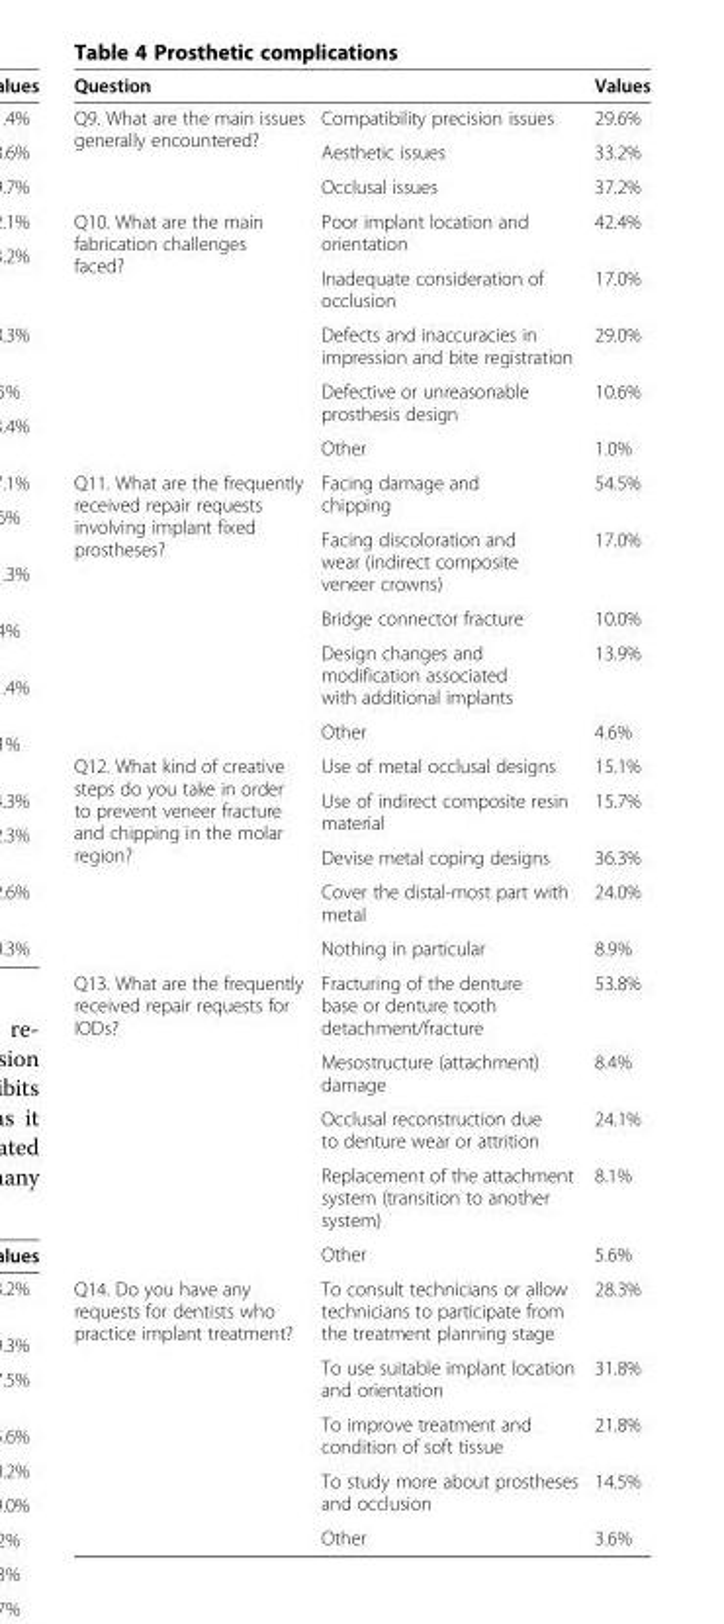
<table><thead><tr><td>Question</td><td></td><td>Values</td></tr></thead><tbody><tr><td rowspan="3">Q9. What are the main issues generally encountered?</td><td>Compatibility precision issues</td><td>29.6%</td></tr><tr><td>Aesthetic issues</td><td>33.2%</td></tr><tr><td>Occlusal issues</td><td>37.2%</td></tr><tr><td rowspan="5">Q10. What are the main fabrication challenges faced?</td><td>Poor implant location and orientation</td><td>42.4%</td></tr><tr><td>Inadequate consideration of occlusion</td><td>17.0%</td></tr><tr><td>Defects and inaccuracies in impression and bite registration</td><td>29.0%</td></tr><tr><td>Defective or unreasonable prosthesis design</td><td>10.6%</td></tr><tr><td>Other</td><td>1.0%</td></tr><tr><td rowspan="5">Q11. What are the frequently received repair requests involving implant fixed prostheses?</td><td>Facing damage and chipping</td><td>54.5%</td></tr><tr><td>Facing discoloration and wear (indirect composite veneer crowns)</td><td>17.0%</td></tr><tr><td>Bridge connector fracture</td><td>10.0%</td></tr><tr><td>Design changes and modification associated with additional implants</td><td>13.9%</td></tr><tr><td>Other</td><td>4.6%</td></tr><tr><td rowspan="5">Q12. What kind of creative steps do you take in order to prevent veneer fracture and chipping in the molar region?</td><td>Use of metal occlusal designs</td><td>15.1%</td></tr><tr><td>Use of indirect composite resin material</td><td>15.7%</td></tr><tr><td>Devise metal coping designs</td><td>36.3%</td></tr><tr><td>Cover the distal-most part with metal</td><td>24.0%</td></tr><tr><td>Nothing in particular</td><td>8.9%</td></tr><tr><td rowspan="5">Q13. What are the frequently received repair requests for IODs?</td><td>Fracturing of the denture base or denture tooth detachment/fracture</td><td>53.8%</td></tr><tr><td>Mesostructure (attachment) damage</td><td>8.4%</td></tr><tr><td>Occlusal reconstruction due to denture wear or attrition</td><td>24.1%</td></tr><tr><td>Replacement of the attachment system (transition to another system)</td><td>8.1%</td></tr><tr><td>Other</td><td>5.6%</td></tr><tr><td rowspan="5">Q14. Do you have any requests for dentists who practice implant treatment?</td><td>To consult technicians or allow technicians to participate from the treatment planning stage</td><td>28.3%</td></tr><tr><td>To use suitable implant location and orientation</td><td>31.8%</td></tr><tr><td>To improve treatment and condition of soft tissue</td><td>21.8%</td></tr><tr><td>To study more about prostheses and occlusion</td><td>14.5%</td></tr><tr><td>Other</td><td>3.6%</td></tr></tbody></table>